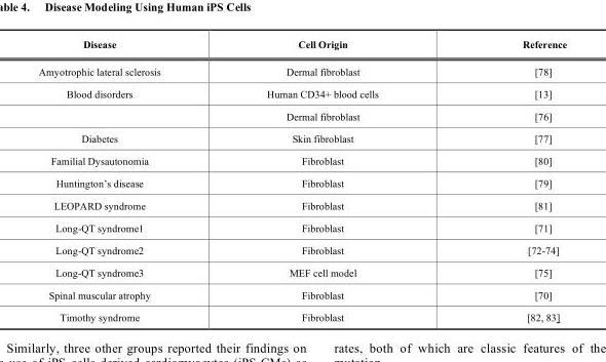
<table><thead><tr><td>Disease</td><td>Cell Origin</td><td>Reference</td></tr></thead><tbody><tr><td>Amyotrophic lateral sclerosis</td><td>Dermal fibroblast</td><td>[78]</td></tr><tr><td rowspan="2">Blood disorders</td><td>Human CD34+ blood cells</td><td>[13]</td></tr><tr><td>Dermal fibroblast</td><td>[76]</td></tr><tr><td>Diabetes</td><td>Skin fibroblast</td><td>[77]</td></tr><tr><td>Familial Dysautonomia</td><td>Fibroblast</td><td>[80]</td></tr><tr><td>Huntington’s disease</td><td>Fibroblast</td><td>[79]</td></tr><tr><td>LEOPARD syndrome</td><td>Fibroblast</td><td>[81]</td></tr><tr><td>Long-QT syndrome1</td><td>Fibroblast</td><td>[71]</td></tr><tr><td>Long-QT syndrome2</td><td>Fibroblast</td><td>[72-74]</td></tr><tr><td>Long-QT syndrome3</td><td>MEF cell model</td><td>[75]</td></tr><tr><td>Spinal muscular atrophy</td><td>Fibroblast</td><td>[70]</td></tr><tr><td>Timothy syndrome</td><td>Fibroblast</td><td>[82, 83]</td></tr></tbody></table>